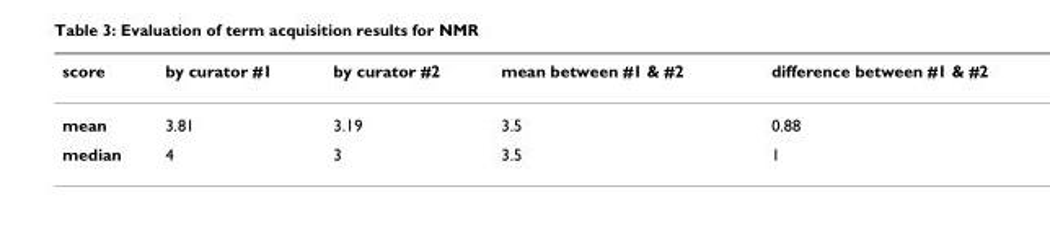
<table><thead><tr><td>score</td><td>by curator #1</td><td>by curator #2</td><td>mean between #1 &amp; #2</td><td>difference between #1 &amp; #2</td></tr></thead><tbody><tr><td>mean</td><td>3.81</td><td>3.19</td><td>3.5</td><td>0.88</td></tr><tr><td>median</td><td>4</td><td>3</td><td>3.5</td><td>1</td></tr></tbody></table>